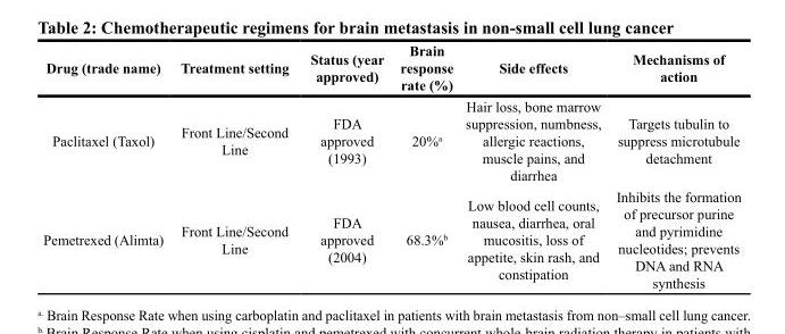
<table><thead><tr><td>Drug (trade name)</td><td>Treatment setting</td><td>Status (year approved)</td><td>Brain response rate (%)</td><td>Side effects</td><td>Mechanisms of action</td></tr></thead><tbody><tr><td>Paclitaxel (Taxol)</td><td>Front Line/Second Line</td><td>FDA approved (1993)</td><td>20%<sup>a</sup></td><td>Hair loss, bone marrow suppression, numbness, allergic reactions, muscle pains, and diarrhea</td><td>Targets tubulin to suppress microtubule detachment</td></tr><tr><td>Pemetrexed (Alimta)</td><td>Front Line/Second Line</td><td>FDA approved (2004)</td><td>68.3%<sup>b</sup></td><td>Low blood cell counts, nausea, diarrhea, oral mucositis, loss of appetite, skin rash, and constipation</td><td>Inhibits the formation of precursor purine and pyrimidine nucleotides; prevents DNA and RNA synthesis</td></tr></tbody></table>